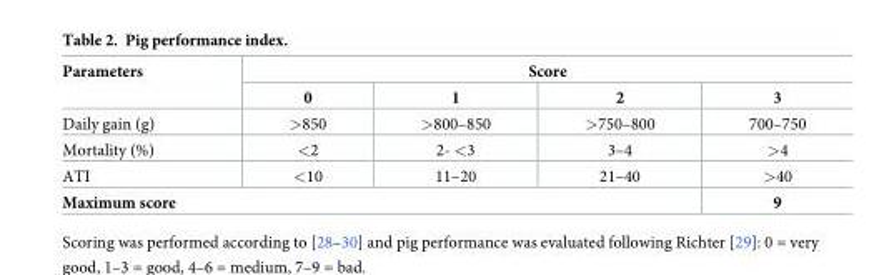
<table><thead><tr><td rowspan="2">Parameters</td><td colspan="4">Score</td></tr><tr><td>0</td><td>1</td><td>2</td><td>3</td></tr></thead><tbody><tr><td>Daily gain (g)</td><td>&gt;850</td><td>&gt;800–850</td><td>&gt;750–800</td><td>700–750</td></tr><tr><td>Mortality (%)</td><td>&lt;2</td><td>2- &lt;3</td><td>3–4</td><td>&gt;4</td></tr><tr><td>ATI</td><td>&lt;10</td><td>11–20</td><td>21–40</td><td>&gt;40</td></tr><tr><td colspan="4">Maximum score</td><td>9</td></tr></tbody></table>